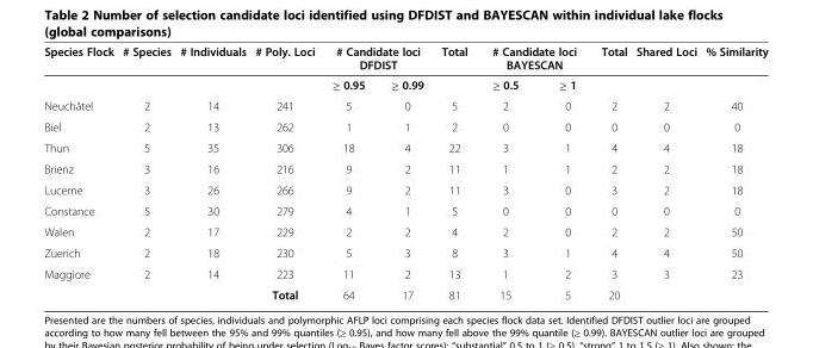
<table><thead><tr><td rowspan="2">Species Flock</td><td rowspan="2"># Species</td><td rowspan="2"># Individuals</td><td rowspan="2"># Poly. Loci</td><td colspan="2"># Candidate loci DFDIST</td><td rowspan="2">Total</td><td colspan="2"># Candidate loci BAYESCAN</td><td rowspan="2">Total</td><td rowspan="2">Shared Loci</td><td rowspan="2">% Similarity</td></tr><tr><td>≥ 0.95</td><td>≥ 0.99</td><td>≥ 0.5</td><td>≥ 1</td></tr></thead><tbody><tr><td>Neuchâtel</td><td>2</td><td>14</td><td>241</td><td>5</td><td>0</td><td>5</td><td>2</td><td>0</td><td>2</td><td>2</td><td>40</td></tr><tr><td>Biel</td><td>2</td><td>13</td><td>262</td><td>1</td><td>1</td><td>2</td><td>0</td><td>0</td><td>0</td><td>0</td><td>0</td></tr><tr><td>Thun</td><td>5</td><td>35</td><td>306</td><td>18</td><td>4</td><td>22</td><td>3</td><td>1</td><td>4</td><td>4</td><td>18</td></tr><tr><td>Brienz</td><td>3</td><td>16</td><td>216</td><td>9</td><td>2</td><td>11</td><td>1</td><td>1</td><td>2</td><td>2</td><td>18</td></tr><tr><td>Lucerne</td><td>3</td><td>26</td><td>266</td><td>9</td><td>2</td><td>11</td><td>3</td><td>0</td><td>3</td><td>2</td><td>18</td></tr><tr><td>Constance</td><td>5</td><td>30</td><td>279</td><td>4</td><td>1</td><td>5</td><td>0</td><td>0</td><td>0</td><td>0</td><td>0</td></tr><tr><td>Walen</td><td>2</td><td>17</td><td>229</td><td>2</td><td>2</td><td>4</td><td>2</td><td>0</td><td>2</td><td>2</td><td>50</td></tr><tr><td>Zuerich</td><td>2</td><td>18</td><td>230</td><td>5</td><td>3</td><td>8</td><td>3</td><td>1</td><td>4</td><td>4</td><td>50</td></tr><tr><td rowspan="2">Maggiore</td><td>2</td><td>14</td><td>223</td><td>11</td><td>2</td><td>13</td><td>1</td><td>2</td><td>3</td><td>3</td><td>23</td></tr><tr><td></td><td></td><td>Total</td><td>64</td><td>17</td><td>81</td><td>15</td><td>5</td><td>20</td><td></td><td></td></tr></tbody></table>